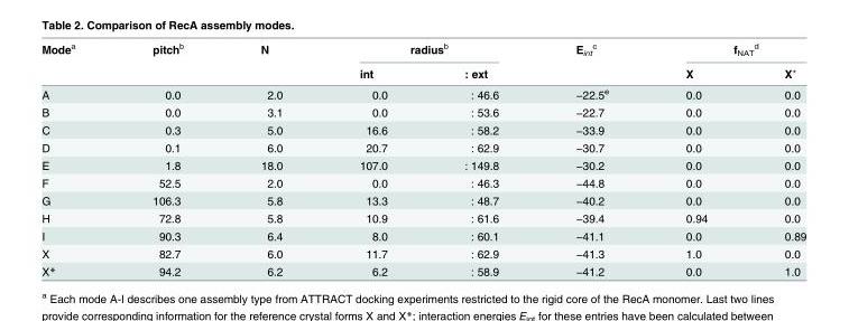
<table><thead><tr><td rowspan="2">Mode<sup>a</sup></td><td rowspan="2">pitch<sup>b</sup></td><td rowspan="2">N</td><td colspan="2">radius<sup>b</sup></td><td rowspan="2">E<sub>int</sub> <sup>c</sup></td><td colspan="2">f<sub>NAT</sub> <sup>d</sup></td></tr><tr><td>int</td><td>: ext</td><td>X</td><td>X<sup>⋆</sup></td></tr></thead><tbody><tr><td>A</td><td>0.0</td><td>2.0</td><td>0.0</td><td>: 46.6</td><td>−22.5<sup>e</sup></td><td>0.0</td><td>0.0</td></tr><tr><td>B</td><td>0.0</td><td>3.1</td><td>0.0</td><td>: 53.6</td><td>−22.7</td><td>0.0</td><td>0.0</td></tr><tr><td>C</td><td>0.3</td><td>5.0</td><td>16.6</td><td>: 58.2</td><td>−33.9</td><td>0.0</td><td>0.0</td></tr><tr><td>D</td><td>0.1</td><td>6.0</td><td>20.7</td><td>: 62.9</td><td>−30.7</td><td>0.0</td><td>0.0</td></tr><tr><td>E</td><td>1.8</td><td>18.0</td><td>107.0</td><td>: 149.8</td><td>−30.2</td><td>0.0</td><td>0.0</td></tr><tr><td>F</td><td>52.5</td><td>2.0</td><td>0.0</td><td>: 46.3</td><td>−44.8</td><td>0.0</td><td>0.0</td></tr><tr><td>G</td><td>106.3</td><td>5.8</td><td>13.3</td><td>: 48.7</td><td>−40.2</td><td>0.0</td><td>0.0</td></tr><tr><td>H</td><td>72.8</td><td>5.8</td><td>10.9</td><td>: 61.6</td><td>−39.4</td><td>0.94</td><td>0.0</td></tr><tr><td>I</td><td>90.3</td><td>6.4</td><td>8.0</td><td>: 60.1</td><td>−41.1</td><td>0.0</td><td>0.89</td></tr><tr><td>X</td><td>82.7</td><td>6.0</td><td>11.7</td><td>: 62.9</td><td>−41.3</td><td>1.0</td><td>0.0</td></tr><tr><td>X*</td><td>94.2</td><td>6.2</td><td>6.2</td><td>: 58.9</td><td>−41.2</td><td>0.0</td><td>1.0</td></tr></tbody></table>